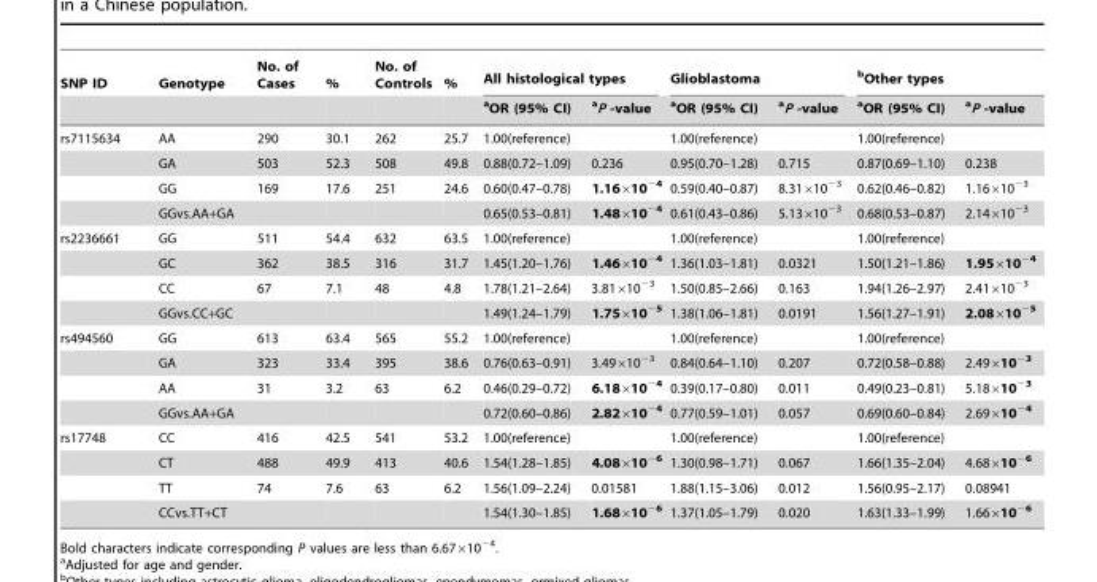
<table><thead><tr><td rowspan="2">SNP ID</td><td rowspan="2">Genotype</td><td rowspan="2">No. of Cases</td><td rowspan="2">%</td><td rowspan="2">No. of Controls</td><td rowspan="2">%</td><td colspan="2">All histological types</td><td colspan="2">Glioblastoma</td><td colspan="2">bOther types</td></tr><tr><td>aOR (95% CI)</td><td>aP -value</td><td>aOR (95% CI)</td><td>aP -value</td><td>aOR (95% CI)</td><td>aP -value</td></tr></thead><tbody><tr><td rowspan="4">rs7115634</td><td>AA</td><td>290</td><td>30.1</td><td>262</td><td>25.7</td><td>1.00(reference)</td><td></td><td>1.00(reference)</td><td></td><td>1.00(reference)</td><td></td></tr><tr><td>GA</td><td>503</td><td>52.3</td><td>508</td><td>49.8</td><td>0.88(0.72–1.09)</td><td>0.236</td><td>0.95(0.70–1.28)</td><td>0.715</td><td>0.87(0.69–1.10)</td><td>0.238</td></tr><tr><td>GG</td><td>169</td><td>17.6</td><td>251</td><td>24.6</td><td>0.60(0.47–0.78)</td><td>1.16×10<sup>−4</sup></td><td>0.59(0.40–0.87)</td><td>8.31×10<sup>−3</sup></td><td>0.62(0.46–0.82)</td><td>1.16×10<sup>−3</sup></td></tr><tr><td>GGvs.AA+GA</td><td></td><td></td><td></td><td></td><td>0.65(0.53–0.81)</td><td>1.48×10<sup>−4</sup></td><td>0.61(0.43–0.86)</td><td>5.13×10<sup>−3</sup></td><td>0.68(0.53–0.87)</td><td>2.14×10<sup>−3</sup></td></tr><tr><td rowspan="4">rs2236661</td><td>GG</td><td>511</td><td>54.4</td><td>632</td><td>63.5</td><td>1.00(reference)</td><td></td><td>1.00(reference)</td><td></td><td>1.00(reference)</td><td></td></tr><tr><td>GC</td><td>362</td><td>38.5</td><td>316</td><td>31.7</td><td>1.45(1.20–1.76)</td><td>1.46×10<sup>−4</sup></td><td>1.36(1.03–1.81)</td><td>0.0321</td><td>1.50(1.21–1.86)</td><td>1.95×10<sup>−4</sup></td></tr><tr><td>CC</td><td>67</td><td>7.1</td><td>48</td><td>4.8</td><td>1.78(1.21–2.64)</td><td>3.81×10<sup>−3</sup></td><td>1.50(0.85–2.66)</td><td>0.163</td><td>1.94(1.26–2.97)</td><td>2.41×10<sup>−3</sup></td></tr><tr><td>GGvs.CC+GC</td><td></td><td></td><td></td><td></td><td>1.49(1.24–1.79)</td><td>1.75×10<sup>−5</sup></td><td>1.38(1.06–1.81)</td><td>0.0191</td><td>1.56(1.27–1.91)</td><td>2.08×10<sup>−5</sup></td></tr><tr><td rowspan="4">rs494560</td><td>GG</td><td>613</td><td>63.4</td><td>565</td><td>55.2</td><td>1.00(reference)</td><td></td><td>1.00(reference)</td><td></td><td>1.00(reference)</td><td></td></tr><tr><td>GA</td><td>323</td><td>33.4</td><td>395</td><td>38.6</td><td>0.76(0.63–0.91)</td><td>3.49×10<sup>−3</sup></td><td>0.84(0.64–1.10)</td><td>0.207</td><td>0.72(0.58–0.88)</td><td>2.49×10<sup>−3</sup></td></tr><tr><td>AA</td><td>31</td><td>3.2</td><td>63</td><td>6.2</td><td>0.46(0.29–0.72)</td><td>6.18×10<sup>−4</sup></td><td>0.39(0.17–0.80)</td><td>0.011</td><td>0.49(0.23–0.81)</td><td>5.18×10<sup>−3</sup></td></tr><tr><td>GGvs.AA+GA</td><td></td><td></td><td></td><td></td><td>0.72(0.60–0.86)</td><td>2.82×10<sup>−4</sup></td><td>0.77(0.59–1.01)</td><td>0.057</td><td>0.69(0.60–0.84)</td><td>2.69×10<sup>−4</sup></td></tr><tr><td rowspan="4">rs17748</td><td>CC</td><td>416</td><td>42.5</td><td>541</td><td>53.2</td><td>1.00(reference)</td><td></td><td>1.00(reference)</td><td></td><td>1.00(reference)</td><td></td></tr><tr><td>CT</td><td>488</td><td>49.9</td><td>413</td><td>40.6</td><td>1.54(1.28–1.85)</td><td>4.08×10<sup>−6</sup></td><td>1.30(0.98–1.71)</td><td>0.067</td><td>1.66(1.35–2.04)</td><td>4.68×10<sup>−6</sup></td></tr><tr><td>TT</td><td>74</td><td>7.6</td><td>63</td><td>6.2</td><td>1.56(1.09–2.24)</td><td>0.01581</td><td>1.88(1.15–3.06)</td><td>0.012</td><td>1.56(0.95–2.17)</td><td>0.08941</td></tr><tr><td>CCvs.TT+CT</td><td></td><td></td><td></td><td></td><td>1.54(1.30–1.85)</td><td>1.68×10<sup>−6</sup></td><td>1.37(1.05–1.79)</td><td>0.020</td><td>1.63(1.33–1.99)</td><td>1.66×10<sup>−6</sup></td></tr></tbody></table>